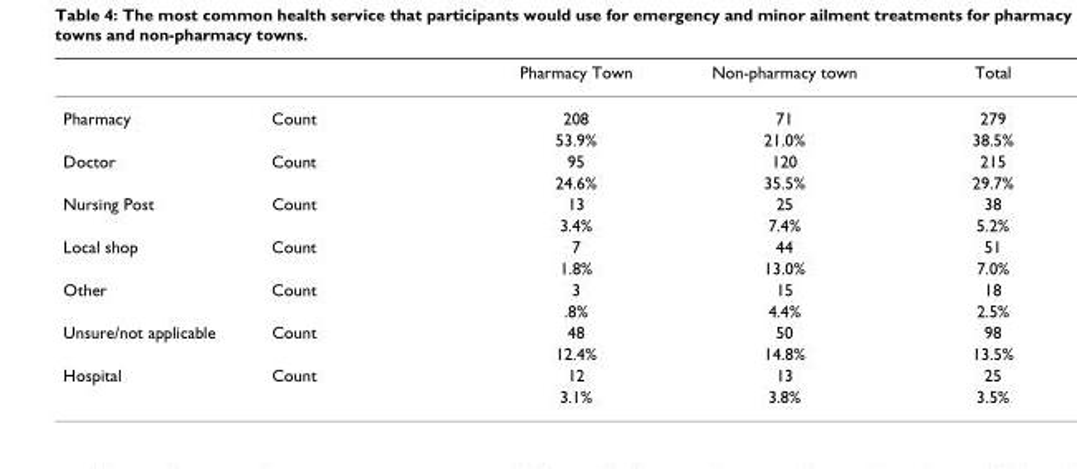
<table><thead><tr><td></td><td></td><td>Pharmacy Town</td><td>Non-pharmacy town</td><td>Total</td></tr></thead><tbody><tr><td rowspan="2">Pharmacy</td><td>Count</td><td>208</td><td>71</td><td>279</td></tr><tr><td></td><td>53.9%</td><td>21.0%</td><td>38.5%</td></tr><tr><td rowspan="2">Doctor</td><td>Count</td><td>95</td><td>120</td><td>215</td></tr><tr><td></td><td>24.6%</td><td>35.5%</td><td>29.7%</td></tr><tr><td rowspan="2">Nursing Post</td><td>Count</td><td>13</td><td>25</td><td>38</td></tr><tr><td></td><td>3.4%</td><td>7.4%</td><td>5.2%</td></tr><tr><td rowspan="2">Local shop</td><td>Count</td><td>7</td><td>44</td><td>51</td></tr><tr><td></td><td>1.8%</td><td>13.0%</td><td>7.0%</td></tr><tr><td rowspan="2">Other</td><td>Count</td><td>3</td><td>15</td><td>18</td></tr><tr><td></td><td>.8%</td><td>4.4%</td><td>2.5%</td></tr><tr><td rowspan="2">Unsure/not applicable</td><td>Count</td><td>48</td><td>50</td><td>98</td></tr><tr><td></td><td>12.4%</td><td>14.8%</td><td>13.5%</td></tr><tr><td rowspan="2">Hospital</td><td>Count</td><td>12</td><td>13</td><td>25</td></tr><tr><td></td><td>3.1%</td><td>3.8%</td><td>3.5%</td></tr></tbody></table>